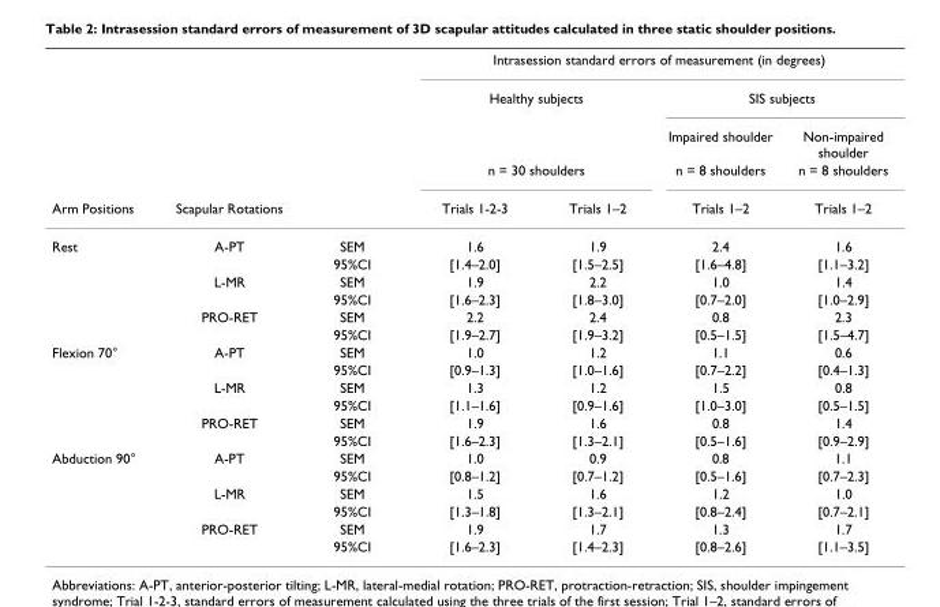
<table><thead><tr><td rowspan="5">Arm Positions</td><td rowspan="5">Scapular Rotations</td><td rowspan="5"></td><td colspan="4">Intrasession standard errors of measurement (in degrees)</td></tr><tr><td colspan="2">Healthy subjects</td><td colspan="2">SIS subjects</td></tr><tr><td></td><td></td><td rowspan="3">Impaired shoulder n = 8 shoulders Trials 1–2</td><td rowspan="3">Non-impaired shoulder n = 8 shoulders Trials 1–2</td></tr><tr><td colspan="2">n = 30 shoulders</td></tr><tr><td>Trials 1-2-3</td><td>Trials 1–2</td></tr></thead><tbody><tr><td rowspan="6">Rest</td><td>A-PT</td><td>SEM</td><td>1.6</td><td>1.9</td><td>2.4</td><td>1.6</td></tr><tr><td></td><td>95%CI</td><td>[1.4–2.0]</td><td>[1.5–2.5]</td><td>[1.6–4.8]</td><td>[1.1–3.2]</td></tr><tr><td>L-MR</td><td>SEM</td><td>1.9</td><td>2.2</td><td>1.0</td><td>1.4</td></tr><tr><td></td><td>95%CI</td><td>[1.6–2.3]</td><td>[1.8–3.0]</td><td>[0.7–2.0]</td><td>[1.0–2.9]</td></tr><tr><td>PRO-RET</td><td>SEM</td><td>2.2</td><td>2.4</td><td>0.8</td><td>2.3</td></tr><tr><td></td><td>95%CI</td><td>[1.9–2.7]</td><td>[1.9–3.2]</td><td>[0.5–1.5]</td><td>[1.5–4.7]</td></tr><tr><td rowspan="6">Flexion 70°</td><td>A-PT</td><td>SEM</td><td>1.0</td><td>1.2</td><td>1.1</td><td>0.6</td></tr><tr><td></td><td>95%CI</td><td>[0.9–1.3]</td><td>[1.0–1.6]</td><td>[0.7–2.2]</td><td>[0.4–1.3]</td></tr><tr><td>L-MR</td><td>SEM</td><td>1.3</td><td>1.2</td><td>1.5</td><td>0.8</td></tr><tr><td></td><td>95%CI</td><td>[1.1–1.6]</td><td>[0.9–1.6]</td><td>[1.0–3.0]</td><td>[0.5–1.5]</td></tr><tr><td>PRO-RET</td><td>SEM</td><td>1.9</td><td>1.6</td><td>0.8</td><td>1.4</td></tr><tr><td></td><td>95%CI</td><td>[1.6–2.3]</td><td>[1.3–2.1]</td><td>[0.5–1.6]</td><td>[0.9–2.9]</td></tr><tr><td rowspan="6">Abduction 90°</td><td>A-PT</td><td>SEM</td><td>1.0</td><td>0.9</td><td>0.8</td><td>1.1</td></tr><tr><td></td><td>95%CI</td><td>[0.8–1.2]</td><td>[0.7–1.2]</td><td>[0.5–1.6]</td><td>[0.7–2.3]</td></tr><tr><td>L-MR</td><td>SEM</td><td>1.5</td><td>1.6</td><td>1.2</td><td>1.0</td></tr><tr><td></td><td>95%CI</td><td>[1.3–1.8]</td><td>[1.3–2.1]</td><td>[0.8–2.4]</td><td>[0.7–2.1]</td></tr><tr><td>PRO-RET</td><td>SEM</td><td>1.9</td><td>1.7</td><td>1.3</td><td>1.7</td></tr><tr><td></td><td>95%CI</td><td>[1.6–2.3]</td><td>[1.4–2.3]</td><td>[0.8–2.6]</td><td>[1.1–3.5]</td></tr></tbody></table>